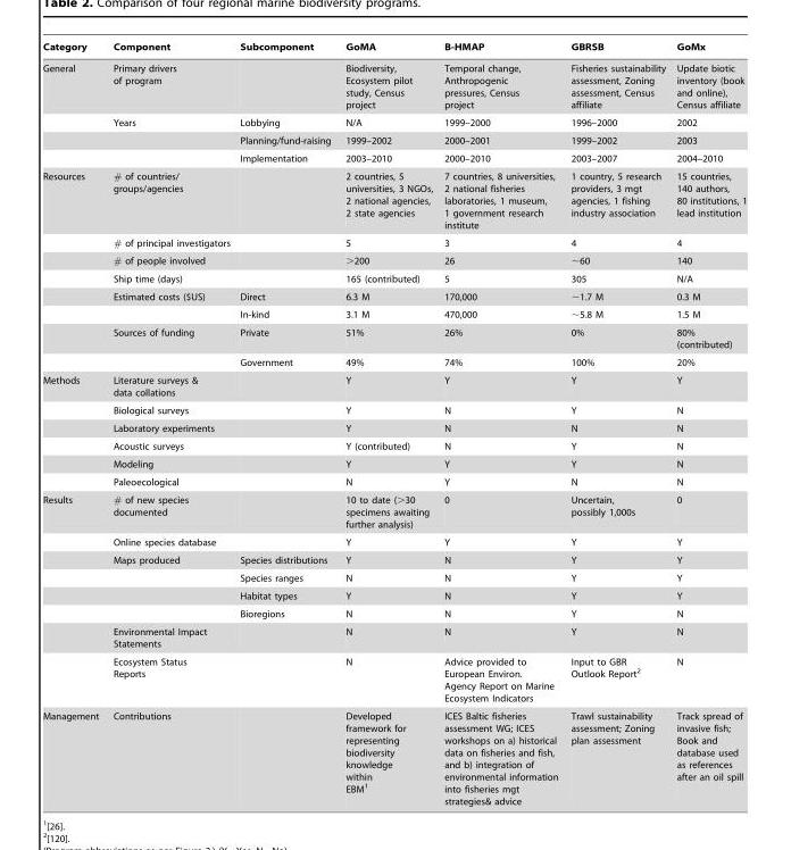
<table><thead><tr><td>Category</td><td>Component</td><td>Subcomponent</td><td>GoMA</td><td>B-HMAP</td><td>GBRSB</td><td>GoMx</td></tr></thead><tbody><tr><td rowspan="4">General</td><td>Primary drivers of program</td><td></td><td>Biodiversity, Ecosystem pilot study, Census project</td><td>Temporal change, Anthropogenic pressures, Census project</td><td>Fisheries sustainability assessment, Zoning assessment, Census affiliate</td><td>Update biotic inventory (book and online), Census affiliate</td></tr><tr><td>Years</td><td>Lobbying</td><td>N/A</td><td>1999–2000</td><td>1996–2000</td><td>2002</td></tr><tr><td></td><td>Planning/fund-raising</td><td>1999–2002</td><td>2000–2001</td><td>1999–2002</td><td>2003</td></tr><tr><td></td><td>Implementation</td><td>2003–2010</td><td>2000–2010</td><td>2003–2007</td><td>2004–2010</td></tr><tr><td rowspan="8">Resources</td><td># of countries/ groups/agencies</td><td></td><td>2 countries, 5 universities, 3 NGOs, 2 national agencies, 2 state agencies</td><td>7 countries, 8 universities, 2 national fisheries laboratories, 1 museum, 1 government research institute</td><td>1 country, 5 research providers, 3 mgt agencies, 1 fishing industry association</td><td>15 countries, 140 authors, 80 institutions, 1 lead institution</td></tr><tr><td># of principal investigators</td><td></td><td>5</td><td>3</td><td>4</td><td>4</td></tr><tr><td># of people involved</td><td></td><td>&gt;200</td><td>26</td><td>∼60</td><td>140</td></tr><tr><td>Ship time (days)</td><td></td><td>165 (contributed)</td><td>5</td><td>305</td><td>N/A</td></tr><tr><td>Estimated costs ($US)</td><td>Direct</td><td>6.3 M</td><td>170,000</td><td>∼1.7 M</td><td>0.3 M</td></tr><tr><td></td><td>In-kind</td><td>3.1 M</td><td>470,000</td><td>∼5.8 M</td><td>1.5 M</td></tr><tr><td>Sources of funding</td><td>Private</td><td>51%</td><td>26%</td><td>0%</td><td>80% (contributed)</td></tr><tr><td></td><td>Government</td><td>49%</td><td>74%</td><td>100%</td><td>20%</td></tr><tr><td rowspan="6">Methods</td><td>Literature surveys &amp; data collations</td><td></td><td>Y</td><td>Y</td><td>Y</td><td>Y</td></tr><tr><td>Biological surveys</td><td></td><td>Y</td><td>N</td><td>Y</td><td>N</td></tr><tr><td>Laboratory experiments</td><td></td><td>Y</td><td>N</td><td>N</td><td>N</td></tr><tr><td>Acoustic surveys</td><td></td><td>Y (contributed)</td><td>N</td><td>Y</td><td>N</td></tr><tr><td>Modeling</td><td></td><td>Y</td><td>Y</td><td>Y</td><td>N</td></tr><tr><td>Paleoecological</td><td></td><td>N</td><td>Y</td><td>N</td><td>N</td></tr><tr><td rowspan="8">Results</td><td># of new species documented</td><td></td><td>10 to date (&gt;30 specimens awaiting further analysis)</td><td>0</td><td>Uncertain, possibly 1,000s</td><td>0</td></tr><tr><td>Online species database</td><td></td><td>Y</td><td>Y</td><td>Y</td><td>Y</td></tr><tr><td>Maps produced</td><td>Species distributions</td><td>Y</td><td>N</td><td>Y</td><td>Y</td></tr><tr><td></td><td>Species ranges</td><td>N</td><td>N</td><td>Y</td><td>Y</td></tr><tr><td></td><td>Habitat types</td><td>Y</td><td>N</td><td>Y</td><td>Y</td></tr><tr><td></td><td>Bioregions</td><td>N</td><td>N</td><td>Y</td><td>N</td></tr><tr><td>Environmental Impact Statements</td><td></td><td>N</td><td>N</td><td>Y</td><td>N</td></tr><tr><td>Ecosystem Status Reports</td><td></td><td>N</td><td>Advice provided to European Environ. Agency Report on Marine Ecosystem Indicators</td><td>Input to GBR Outlook Report<sup>2</sup></td><td>N</td></tr><tr><td>Management</td><td>Contributions</td><td></td><td>Developed framework for representing biodiversity knowledge within EBM<sup>1</sup></td><td>ICES Baltic fisheries assessment WG; ICES workshops on a) historical data on fisheries and fish, and b) integration of environmental information into fisheries mgt strategies&amp; advice</td><td>Trawl sustainability assessment; Zoning plan assessment</td><td>Track spread of invasive fish; Book and database used as references after an oil spill</td></tr></tbody></table>